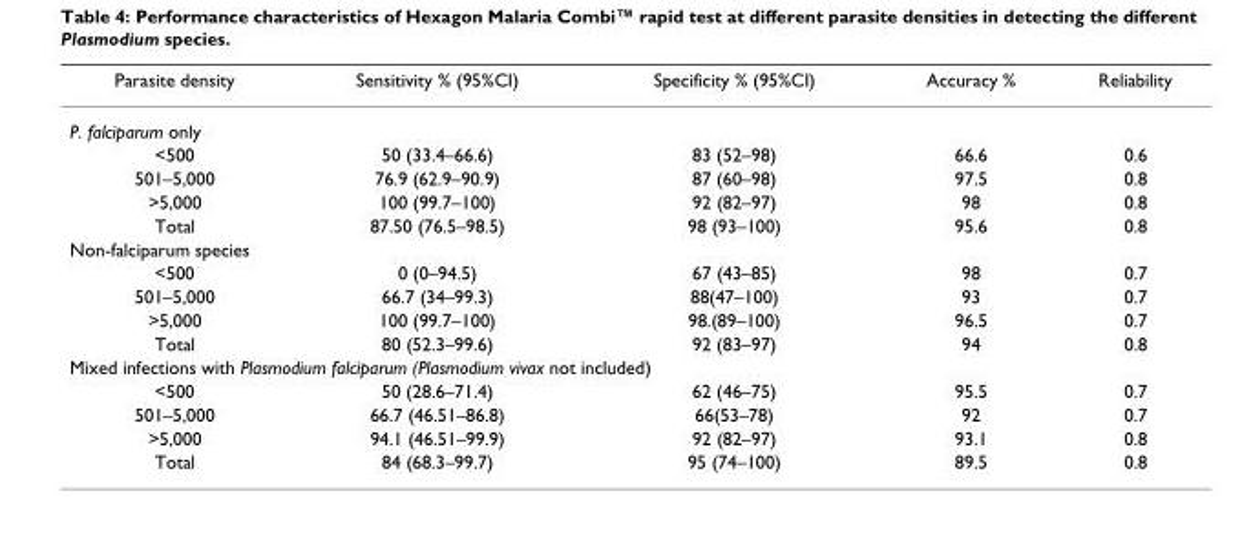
<table><thead><tr><td>Parasite density</td><td>Sensitivity % (95%CI)</td><td>Specificity % (95%CI)</td><td>Accuracy %</td><td>Reliability</td></tr></thead><tbody><tr><td colspan="5">P. falciparum only</td></tr><tr><td>&lt;500</td><td>50 (33.4–66.6)</td><td>83 (52–98)</td><td>66.6</td><td>0.6</td></tr><tr><td>501–5,000</td><td>76.9 (62.9–90.9)</td><td>87 (60–98)</td><td>97.5</td><td>0.8</td></tr><tr><td>&gt;5,000</td><td>100 (99.7–100)</td><td>92 (82–97)</td><td>98</td><td>0.8</td></tr><tr><td>Total</td><td>87.50 (76.5–98.5)</td><td>98 (93–100)</td><td>95.6</td><td>0.8</td></tr><tr><td colspan="5">Non-falciparum species</td></tr><tr><td>&lt;500</td><td>0 (0–94.5)</td><td>67 (43–85)</td><td>98</td><td>0.7</td></tr><tr><td>501–5,000</td><td>66.7 (34–99.3)</td><td>88(47–100)</td><td>93</td><td>0.7</td></tr><tr><td>&gt;5,000</td><td>100 (99.7–100)</td><td>98.(89–100)</td><td>96.5</td><td>0.7</td></tr><tr><td>Total</td><td>80 (52.3–99.6)</td><td>92 (83–97)</td><td>94</td><td>0.8</td></tr><tr><td colspan="5">Mixed infections with Plasmodium falciparum (Plasmodium vivax not included)</td></tr><tr><td>&lt;500</td><td>50 (28.6–71.4)</td><td>62 (46–75)</td><td>95.5</td><td>0.7</td></tr><tr><td>501–5,000</td><td>66.7 (46.51–86.8)</td><td>66(53–78)</td><td>92</td><td>0.7</td></tr><tr><td>&gt;5,000</td><td>94.1 (46.51–99.9)</td><td>92 (82–97)</td><td>93.1</td><td>0.8</td></tr><tr><td>Total</td><td>84 (68.3–99.7)</td><td>95 (74–100)</td><td>89.5</td><td>0.8</td></tr></tbody></table>